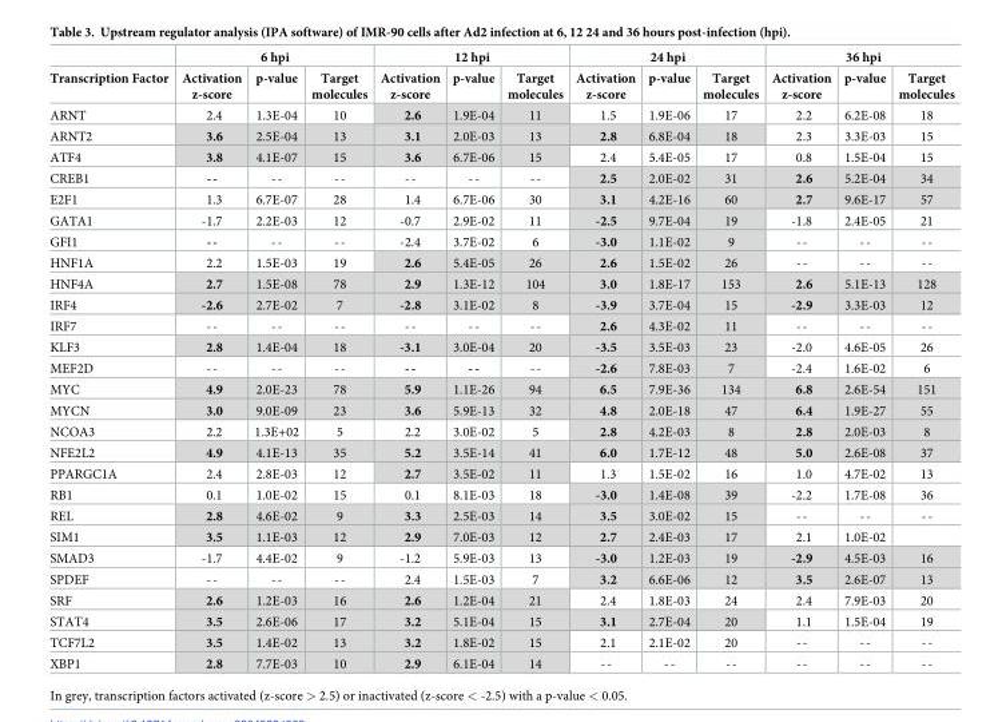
<table><thead><tr><td rowspan="2">Transcription Factor</td><td colspan="3">6 hpi</td><td colspan="3">12 hpi</td><td colspan="3">24 hpi</td><td colspan="3">36 hpi</td></tr><tr><td>Activation z-score</td><td>p-value</td><td>Target molecules</td><td>Activation z-score</td><td>p-value</td><td>Target molecules</td><td>Activation z-score</td><td>p-value</td><td>Target molecules</td><td>Activation z-score</td><td>p-value</td><td>Target molecules</td></tr></thead><tbody><tr><td>ARNT</td><td>2.4</td><td>1.3E-04</td><td>10</td><td>2.6</td><td>1.9E-04</td><td>11</td><td>1.5</td><td>1.9E-06</td><td>17</td><td>2.2</td><td>6.2E-08</td><td>18</td></tr><tr><td>ARNT2</td><td>3.6</td><td>2.5E-04</td><td>13</td><td>3.1</td><td>2.0E-03</td><td>13</td><td>2.8</td><td>6.8E-04</td><td>18</td><td>2.3</td><td>3.3E-03</td><td>15</td></tr><tr><td>ATF4</td><td>3.8</td><td>4.1E-07</td><td>15</td><td>3.6</td><td>6.7E-06</td><td>15</td><td>2.4</td><td>5.4E-05</td><td>17</td><td>0.8</td><td>1.5E-04</td><td>15</td></tr><tr><td>CREB1</td><td>--</td><td>--</td><td>--</td><td>--</td><td>--</td><td>--</td><td>2.5</td><td>2.0E-02</td><td>31</td><td>2.6</td><td>5.2E-04</td><td>34</td></tr><tr><td>E2F1</td><td>1.3</td><td>6.7E-07</td><td>28</td><td>1.4</td><td>6.7E-06</td><td>30</td><td>3.1</td><td>4.2E-16</td><td>60</td><td>2.7</td><td>9.6E-17</td><td>57</td></tr><tr><td>GATA1</td><td>-1.7</td><td>2.2E-03</td><td>12</td><td>-0.7</td><td>2.9E-02</td><td>11</td><td>-2.5</td><td>9.7E-04</td><td>19</td><td>-1.8</td><td>2.4E-05</td><td>21</td></tr><tr><td>GFI1</td><td>--</td><td>--</td><td>--</td><td>-2.4</td><td>3.7E-02</td><td>6</td><td>-3.0</td><td>1.1E-02</td><td>9</td><td>--</td><td>--</td><td>--</td></tr><tr><td>HNF1A</td><td>2.2</td><td>1.5E-03</td><td>19</td><td>2.6</td><td>5.4E-05</td><td>26</td><td>2.6</td><td>1.5E-02</td><td>26</td><td>--</td><td>--</td><td>--</td></tr><tr><td>HNF4A</td><td>2.7</td><td>1.5E-08</td><td>78</td><td>2.9</td><td>1.3E-12</td><td>104</td><td>3.0</td><td>1.8E-17</td><td>153</td><td>2.6</td><td>5.1E-13</td><td>128</td></tr><tr><td>IRF4</td><td>-2.6</td><td>2.7E-02</td><td>7</td><td>-2.8</td><td>3.1E-02</td><td>8</td><td>-3.9</td><td>3.7E-04</td><td>15</td><td>-2.9</td><td>3.3E-03</td><td>12</td></tr><tr><td>IRF7</td><td>--</td><td>--</td><td>--</td><td>--</td><td>--</td><td>--</td><td>2.6</td><td>4.3E-02</td><td>11</td><td>--</td><td>--</td><td>--</td></tr><tr><td>KLF3</td><td>2.8</td><td>1.4E-04</td><td>18</td><td>-3.1</td><td>3.0E-04</td><td>20</td><td>-3.5</td><td>3.5E-03</td><td>23</td><td>-2.0</td><td>4.6E-05</td><td>26</td></tr><tr><td>MEF2D</td><td>--</td><td>--</td><td>--</td><td>--</td><td>--</td><td>--</td><td>-2.6</td><td>7.8E-03</td><td>7</td><td>-2.4</td><td>1.6E-02</td><td>6</td></tr><tr><td>MYC</td><td>4.9</td><td>2.0E-23</td><td>78</td><td>5.9</td><td>1.1E-26</td><td>94</td><td>6.5</td><td>7.9E-36</td><td>134</td><td>6.8</td><td>2.6E-54</td><td>151</td></tr><tr><td>MYCN</td><td>3.0</td><td>9.0E-09</td><td>23</td><td>3.6</td><td>5.9E-13</td><td>32</td><td>4.8</td><td>2.0E-18</td><td>47</td><td>6.4</td><td>1.9E-27</td><td>55</td></tr><tr><td>NCOA3</td><td>2.2</td><td>1.3E+02</td><td>5</td><td>2.2</td><td>3.0E-02</td><td>5</td><td>2.8</td><td>4.2E-03</td><td>8</td><td>2.8</td><td>2.0E-03</td><td>8</td></tr><tr><td>NFE2L2</td><td>4.9</td><td>4.1E-13</td><td>35</td><td>5.2</td><td>3.5E-14</td><td>41</td><td>6.0</td><td>1.7E-12</td><td>48</td><td>5.0</td><td>2.6E-08</td><td>37</td></tr><tr><td>PPARGC1A</td><td>2.4</td><td>2.8E-03</td><td>12</td><td>2.7</td><td>3.5E-02</td><td>11</td><td>1.3</td><td>1.5E-02</td><td>16</td><td>1.0</td><td>4.7E-02</td><td>13</td></tr><tr><td>RB1</td><td>0.1</td><td>1.0E-02</td><td>15</td><td>0.1</td><td>8.1E-03</td><td>18</td><td>-3.0</td><td>1.4E-08</td><td>39</td><td>-2.2</td><td>1.7E-08</td><td>36</td></tr><tr><td>REL</td><td>2.8</td><td>4.6E-02</td><td>9</td><td>3.3</td><td>2.5E-03</td><td>14</td><td>3.5</td><td>3.0E-02</td><td>15</td><td>--</td><td>--</td><td>--</td></tr><tr><td>SIM1</td><td>3.5</td><td>1.1E-03</td><td>12</td><td>2.9</td><td>7.0E-03</td><td>12</td><td>2.7</td><td>2.4E-03</td><td>17</td><td>2.1</td><td>1.0E-02</td><td></td></tr><tr><td>SMAD3</td><td>-1.7</td><td>4.4E-02</td><td>9</td><td>-1.2</td><td>5.9E-03</td><td>13</td><td>-3.0</td><td>1.2E-03</td><td>19</td><td>-2.9</td><td>4.5E-03</td><td>16</td></tr><tr><td>SPDEF</td><td>--</td><td>--</td><td>--</td><td>2.4</td><td>1.5E-03</td><td>7</td><td>3.2</td><td>6.6E-06</td><td>12</td><td>3.5</td><td>2.6E-07</td><td>13</td></tr><tr><td>SRF</td><td>2.6</td><td>1.2E-03</td><td>16</td><td>2.6</td><td>1.2E-04</td><td>21</td><td>2.4</td><td>1.8E-03</td><td>24</td><td>2.4</td><td>7.9E-03</td><td>20</td></tr><tr><td>STAT4</td><td>3.5</td><td>2.6E-06</td><td>17</td><td>3.2</td><td>5.1E-04</td><td>15</td><td>3.1</td><td>2.7E-04</td><td>20</td><td>1.1</td><td>1.5E-04</td><td>19</td></tr><tr><td>TCF7L2</td><td>3.5</td><td>1.4E-02</td><td>13</td><td>3.2</td><td>1.8E-02</td><td>15</td><td>2.1</td><td>2.1E-02</td><td>20</td><td>--</td><td>--</td><td>--</td></tr><tr><td>XBP1</td><td>2.8</td><td>7.7E-03</td><td>10</td><td>2.9</td><td>6.1E-04</td><td>14</td><td>--</td><td>--</td><td>--</td><td>--</td><td>--</td><td>--</td></tr></tbody></table>